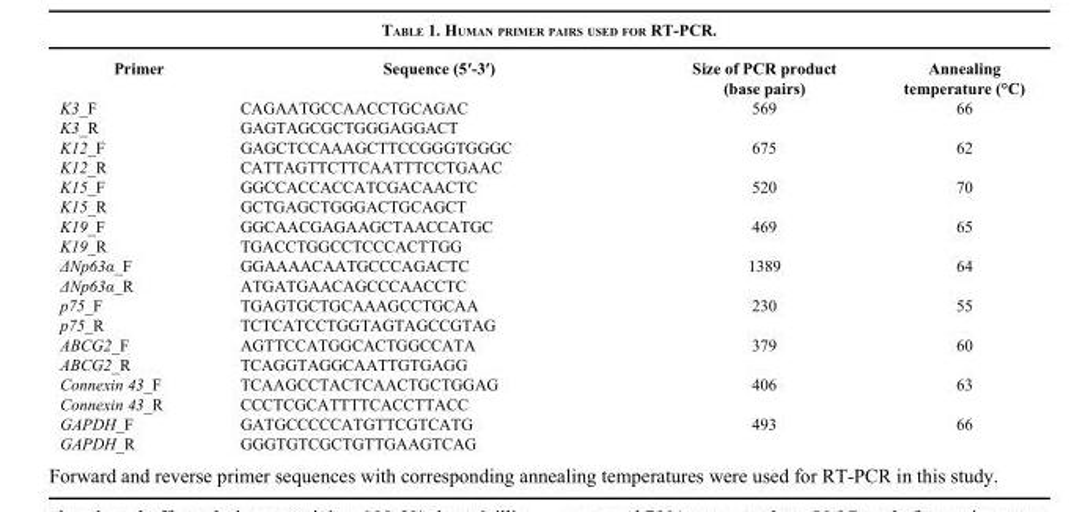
<table><thead><tr><td>Primer</td><td>Sequence (5′-3′)</td><td>Size of PCR product (base pairs)</td><td>Annealing temperature (°C)</td></tr></thead><tbody><tr><td>K3_F</td><td>CAGAATGCCAACCTGCAGAC</td><td>569</td><td>66</td></tr><tr><td>K3_R</td><td>GAGTAGCGCTGGGAGGACT</td><td></td><td></td></tr><tr><td>K12_F</td><td>GAGCTCCAAAGCTTCCGGGTGGGC</td><td>675</td><td>62</td></tr><tr><td>K12_R</td><td>CATTAGTTCTTCAATTTCCTGAAC</td><td></td><td></td></tr><tr><td>K15_F</td><td>GGCCACCACCATCGACAACTC</td><td>520</td><td>70</td></tr><tr><td>K15_R</td><td>GCTGAGCTGGGACTGCAGCT</td><td></td><td></td></tr><tr><td>K19_F</td><td>GGCAACGAGAAGCTAACCATGC</td><td>469</td><td>65</td></tr><tr><td>K19_R</td><td>TGACCTGGCCTCCCACTTGG</td><td></td><td></td></tr><tr><td>ΔNp63α_F</td><td>GGAAAACAATGCCCAGACTC</td><td>1389</td><td>64</td></tr><tr><td>ΔNp63α_R</td><td>ATGATGAACAGCCCAACCTC</td><td></td><td></td></tr><tr><td>p75_F</td><td>TGAGTGCTGCAAAGCCTGCAA</td><td>230</td><td>55</td></tr><tr><td>p75_R</td><td>TCTCATCCTGGTAGTAGCCGTAG</td><td></td><td></td></tr><tr><td>ABCG2_F</td><td>AGTTCCATGGCACTGGCCATA</td><td>379</td><td>60</td></tr><tr><td>ABCG2_R</td><td>TCAGGTAGGCAATTGTGAGG</td><td></td><td></td></tr><tr><td>Connexin 43_F</td><td>TCAAGCCTACTCAACTGCTGGAG</td><td>406</td><td>63</td></tr><tr><td>Connexin 43_R</td><td>CCCTCGCATTTTCACCTTACC</td><td></td><td></td></tr><tr><td>GAPDH_F</td><td>GATGCCCCCATGTTCGTCATG</td><td>493</td><td>66</td></tr><tr><td>GAPDH_R</td><td>GGGTGTCGCTGTTGAAGTCAG</td><td></td><td></td></tr></tbody></table>